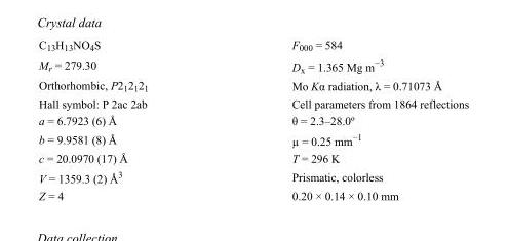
<table><tbody><tr><td>C<sub>13</sub>H<sub>13</sub>NO<sub>4</sub>S</td><td>F000 = 584</td></tr><tr><td>M<sub>r</sub> = 279.30</td><td>D<sub>x</sub> = 1.365 Mg m<sup>−3</sup></td></tr><tr><td>Orthorhombic, P2<sub>1</sub>2<sub>1</sub>2<sub>1</sub></td><td>Mo Kα radiation, λ = 0.71073 Å</td></tr><tr><td>Hall symbol: P 2ac 2ab</td><td>Cell parameters from 1864 reflections</td></tr><tr><td>a = 6.7923 (6) Å</td><td>θ = 2.3–28.0º</td></tr><tr><td>b = 9.9581 (8) Å</td><td>µ = 0.25 mm<sup>−1</sup></td></tr><tr><td>c = 20.0970 (17) Å</td><td>T = 296 K</td></tr><tr><td>V = 1359.3 (2) Å<sup>3</sup></td><td>Prismatic, colorless</td></tr><tr><td>Z = 4</td><td>0.20 × 0.14 × 0.10 mm</td></tr></tbody></table>